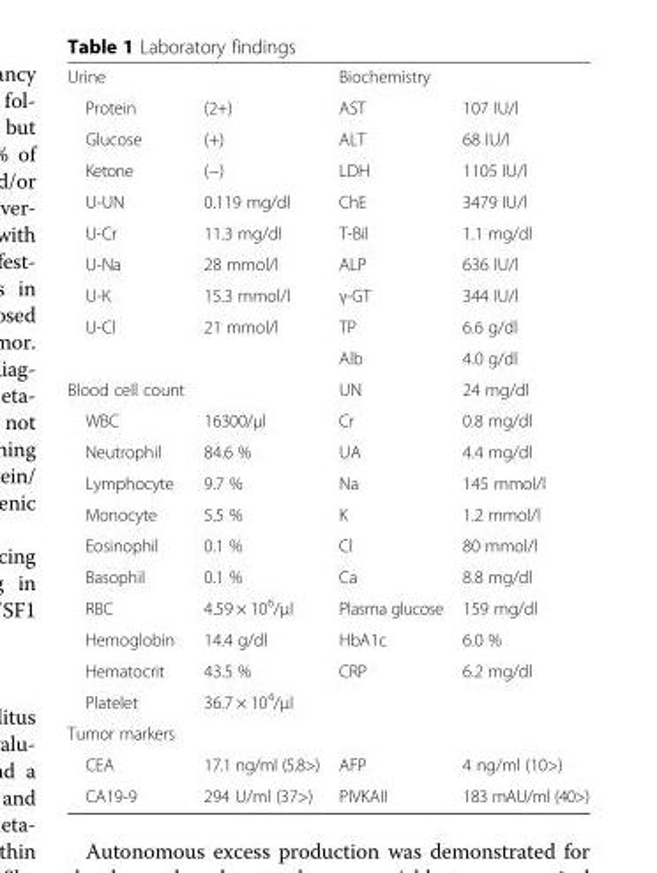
<table><tbody><tr><td>Urine</td><td></td><td>Biochemistry</td><td></td></tr><tr><td>Protein</td><td>(2+)</td><td>AST</td><td>107 IU/l</td></tr><tr><td>Glucose</td><td>(+)</td><td>ALT</td><td>68 IU/l</td></tr><tr><td>Ketone</td><td>(−)</td><td>LDH</td><td>1105 IU/l</td></tr><tr><td>U-UN</td><td>0.119 mg/dl</td><td>ChE</td><td>3479 IU/l</td></tr><tr><td>U-Cr</td><td>11.3 mg/dl</td><td>T-Bil</td><td>1.1 mg/dl</td></tr><tr><td>U-Na</td><td>28 mmol/l</td><td>ALP</td><td>636 lU/l</td></tr><tr><td>U-K</td><td>15.3 mmol/l</td><td>γ-GT</td><td>344 IU/l</td></tr><tr><td rowspan="2">U-Cl</td><td>21 mmol/l</td><td>TP</td><td>6.6 g/dl</td></tr><tr><td></td><td>Alb</td><td>4.0 g/dl</td></tr><tr><td>Blood cell count</td><td></td><td>UN</td><td>24 mg/dl</td></tr><tr><td>WBC</td><td>16300/μl</td><td>Cr</td><td>0.8 mg/dl</td></tr><tr><td>Neutrophil</td><td>84.6 %</td><td>UA</td><td>4.4 mg/dl</td></tr><tr><td>Lymphocyte</td><td>9.7 %</td><td>Na</td><td>145 mmol/l</td></tr><tr><td>Monocyte</td><td>5.5 %</td><td>K</td><td>1.2 mmol/l</td></tr><tr><td>Eosinophil</td><td>0.1 %</td><td>Cl</td><td>80 mmol/l</td></tr><tr><td>Basophil</td><td>0.1 %</td><td>Ca</td><td>8.8 mg/dl</td></tr><tr><td>RBC</td><td>4.59 × 10<sup>6</sup>/μl</td><td>Plasma glucose</td><td>159 mg/dl</td></tr><tr><td>Hemoglobin</td><td>14.4 g/dl</td><td>HbA1c</td><td>6.0 %</td></tr><tr><td>Hematocrit</td><td>43.5 %</td><td>CRP</td><td>6.2 mg/dl</td></tr><tr><td>Platelet</td><td>36.7 × 10<sup>4</sup>/μl</td><td></td><td></td></tr><tr><td colspan="4">Tumor markers</td></tr><tr><td>CEA</td><td>17.1 ng/ml (5.8&gt;)</td><td>AFP</td><td>4 ng/ml (10&gt;)</td></tr><tr><td>CA19-9</td><td>294 U/ml (37&gt;)</td><td>PIVKAII</td><td>183 mAU/ml (40&gt;)</td></tr></tbody></table>